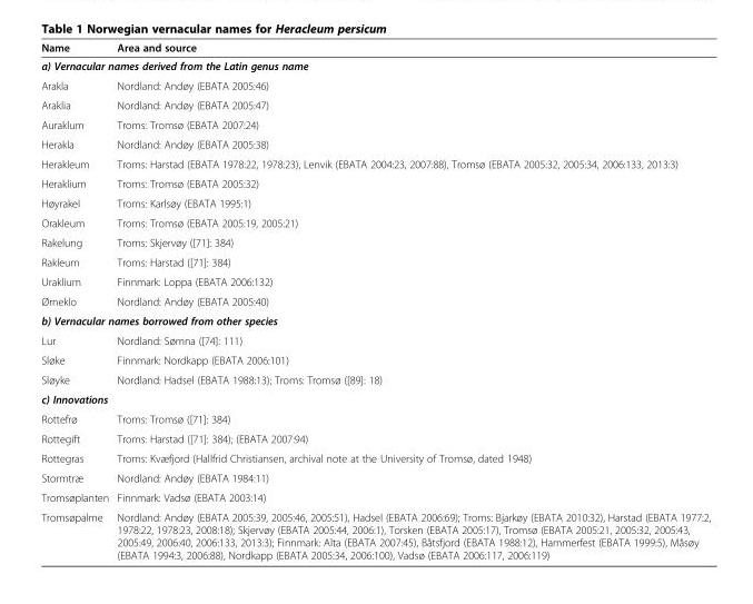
<table><thead><tr><td>Name</td><td>Area and source</td></tr></thead><tbody><tr><td colspan="2">a) Vernacular names derived from the Latin genus name</td></tr><tr><td>Arakla</td><td>Nordland: Andøy (EBATA 2005:46)</td></tr><tr><td>Araklia</td><td>Nordland: Andøy (EBATA 2005:47)</td></tr><tr><td>Auraklum</td><td>Troms: Tromsø (EBATA 2007:24)</td></tr><tr><td>Herakla</td><td>Nordland: Andøy (EBATA 2005:38)</td></tr><tr><td>Herakleum</td><td>Troms: Harstad (EBATA 1978:22, 1978:23), Lenvik (EBATA 2004:23, 2007:88), Tromsø (EBATA 2005:32, 2005:34, 2006:133, 2013:3)</td></tr><tr><td>Heraklium</td><td>Troms: Tromsø (EBATA 2005:32)</td></tr><tr><td>Høyrakel</td><td>Troms: Karlsøy (EBATA 1995:1)</td></tr><tr><td>Orakleum</td><td>Troms: Tromsø (EBATA 2005:19, 2005:21)</td></tr><tr><td>Rakelung</td><td>Troms: Skjervøy ([71]: 384)</td></tr><tr><td>Rakleum</td><td>Troms: Harstad ([71]: 384)</td></tr><tr><td>Uraklium</td><td>Finnmark: Loppa (EBATA 2006:132)</td></tr><tr><td>Ørneklo</td><td>Nordland: Andøy (EBATA 2005:40)</td></tr><tr><td colspan="2">b) Vernacular names borrowed from other species</td></tr><tr><td>Lur</td><td>Nordland: Sømna ([74]: 111)</td></tr><tr><td>Sløke</td><td>Finnmark: Nordkapp (EBATA 2006:101)</td></tr><tr><td>Sløyke</td><td>Nordland: Hadsel (EBATA 1988:13); Troms: Tromsø ([89]: 18)</td></tr><tr><td colspan="2">c) Innovations</td></tr><tr><td>Rottefrø</td><td>Troms: Tromsø ([71]: 384)</td></tr><tr><td>Rottegift</td><td>Troms: Harstad ([71]: 384); (EBATA 2007:94)</td></tr><tr><td>Rottegras</td><td>Troms: Kvæfjord (Hallfrid Christiansen, archival note at the University of Tromsø, dated 1948)</td></tr><tr><td>Stormtræ</td><td>Nordland: Andøy (EBATA 1984:11)</td></tr><tr><td>Tromsøplanten</td><td>Finnmark: Vadsø (EBATA 2003:14)</td></tr><tr><td>Tromsøpalme</td><td>Nordland: Andøy (EBATA 2005:39, 2005:46, 2005:51), Hadsel (EBATA 2006:69); Troms: Bjarkøy (EBATA 2010:32), Harstad (EBATA 1977:2, 1978:22, 1978:23, 2008:18); Skjervøy (EBATA 2005:44, 2006:1), Torsken (EBATA 2005:17), Tromsø (EBATA 2005:21, 2005:32, 2005:43, 2005:49, 2006:40, 2006:133, 2013:3); Finnmark: Alta (EBATA 2007:45), Båtsfjord (EBATA 1988:12), Hammerfest (EBATA 1999:5), Måsøy (EBATA 1994:3, 2006:88), Nordkapp (EBATA 2005:34, 2006:100), Vadsø (EBATA 2006:117, 2006:119)</td></tr></tbody></table>